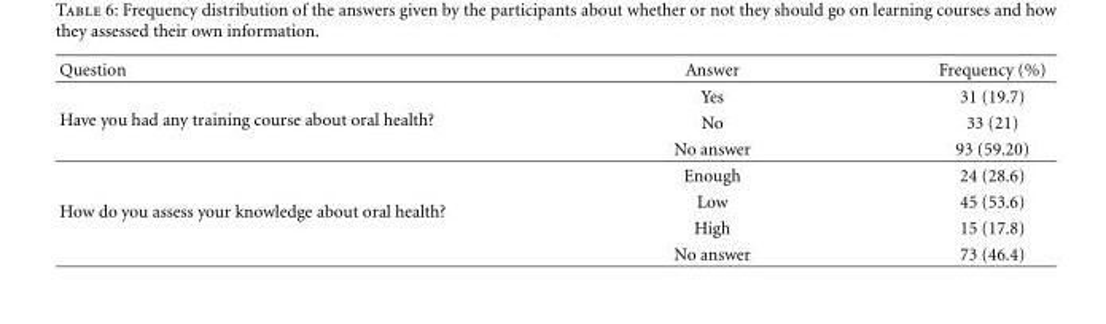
<table><thead><tr><td>Question</td><td>Answer</td><td>Frequency (%)</td></tr></thead><tbody><tr><td rowspan="3">Have you had any training course about oral health?</td><td>Yes</td><td>31 (19.7)</td></tr><tr><td>No</td><td>33 (21)</td></tr><tr><td>No answer</td><td>93 (59.20)</td></tr><tr><td rowspan="4">How do you assess your knowledge about oral health?</td><td>Enough</td><td>24 (28.6)</td></tr><tr><td>Low</td><td>45 (53.6)</td></tr><tr><td>High</td><td>15 (17.8)</td></tr><tr><td>No answer</td><td>73 (46.4)</td></tr></tbody></table>